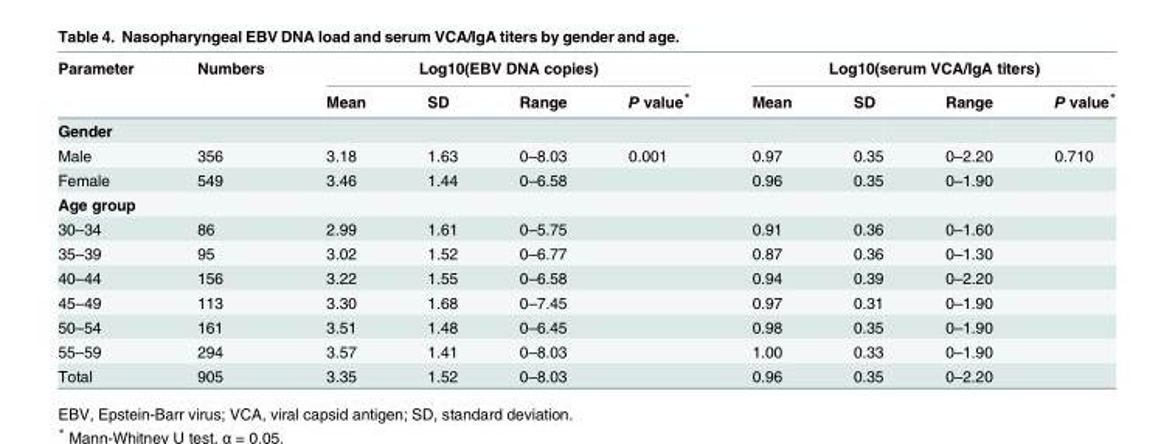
<table><thead><tr><td rowspan="2">Parameter</td><td rowspan="2">Numbers</td><td colspan="4">Log10(EBV DNA copies)</td><td colspan="4">Log10(serum VCA/IgA titers)</td></tr><tr><td>Mean</td><td>SD</td><td>Range</td><td>P value*</td><td>Mean</td><td>SD</td><td>Range</td><td>P value*</td></tr></thead><tbody><tr><td colspan="10">Gender</td></tr><tr><td>Male</td><td>356</td><td>3.18</td><td>1.63</td><td>0–8.03</td><td>0.001</td><td>0.97</td><td>0.35</td><td>0–2.20</td><td>0.710</td></tr><tr><td>Female</td><td>549</td><td>3.46</td><td>1.44</td><td>0–6.58</td><td></td><td>0.96</td><td>0.35</td><td>0–1.90</td><td></td></tr><tr><td colspan="10">Age group</td></tr><tr><td>30–34</td><td>86</td><td>2.99</td><td>1.61</td><td>0–5.75</td><td></td><td>0.91</td><td>0.36</td><td>0–1.60</td><td></td></tr><tr><td>35–39</td><td>95</td><td>3.02</td><td>1.52</td><td>0–6.77</td><td></td><td>0.87</td><td>0.36</td><td>0–1.30</td><td></td></tr><tr><td>40–44</td><td>156</td><td>3.22</td><td>1.55</td><td>0–6.58</td><td></td><td>0.94</td><td>0.39</td><td>0–2.20</td><td></td></tr><tr><td>45–49</td><td>113</td><td>3.30</td><td>1.68</td><td>0–7.45</td><td></td><td>0.97</td><td>0.31</td><td>0–1.90</td><td></td></tr><tr><td>50–54</td><td>161</td><td>3.51</td><td>1.48</td><td>0–6.45</td><td></td><td>0.98</td><td>0.35</td><td>0–1.90</td><td></td></tr><tr><td>55–59</td><td>294</td><td>3.57</td><td>1.41</td><td>0–8.03</td><td></td><td>1.00</td><td>0.33</td><td>0–1.90</td><td></td></tr><tr><td>Total</td><td>905</td><td>3.35</td><td>1.52</td><td>0–8.03</td><td></td><td>0.96</td><td>0.35</td><td>0–2.20</td><td></td></tr></tbody></table>